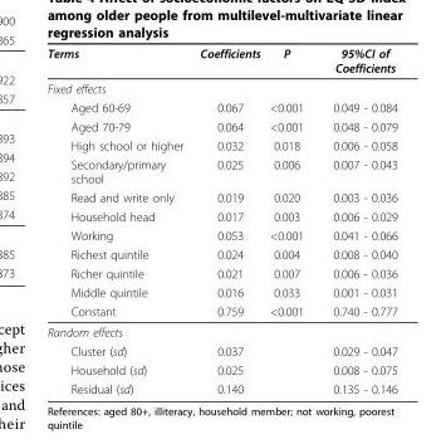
<table><thead><tr><td>Terms</td><td>Coefficients</td><td>P</td><td>95%CI of Coefficients</td></tr></thead><tbody><tr><td colspan="4">Fixed effects</td></tr><tr><td>Aged 60-69</td><td>0.067</td><td>&lt;0.001</td><td>0.049 - 0.084</td></tr><tr><td>Aged 70-79</td><td>0.064</td><td>&lt;0.001</td><td>0.048 - 0.079</td></tr><tr><td>High school or higher</td><td>0.032</td><td>0.018</td><td>0.006 - 0.058</td></tr><tr><td>Secondary/primary school</td><td>0.025</td><td>0.006</td><td>0.007 - 0.043</td></tr><tr><td>Read and write only</td><td>0.019</td><td>0.020</td><td>0.003 - 0.036</td></tr><tr><td>Household head</td><td>0.017</td><td>0.003</td><td>0.006 - 0.029</td></tr><tr><td>Working</td><td>0.053</td><td>&lt;0.001</td><td>0.041 - 0.066</td></tr><tr><td>Richest quintile</td><td>0.024</td><td>0.004</td><td>0.008 - 0.040</td></tr><tr><td>Richer quintile</td><td>0.021</td><td>0.007</td><td>0.006 - 0.036</td></tr><tr><td>Middle quintile</td><td>0.016</td><td>0.033</td><td>0.001 - 0.031</td></tr><tr><td>Constant</td><td>0.759</td><td>&lt;0.001</td><td>0.740 - 0.777</td></tr><tr><td colspan="4">Random effects</td></tr><tr><td>Cluster (sd)</td><td>0.037</td><td></td><td>0.029 - 0.047</td></tr><tr><td>Household (sd)</td><td>0.025</td><td></td><td>0.008 - 0.075</td></tr><tr><td>Residual (sd)</td><td>0.140</td><td></td><td>0.135 - 0.146</td></tr></tbody></table>